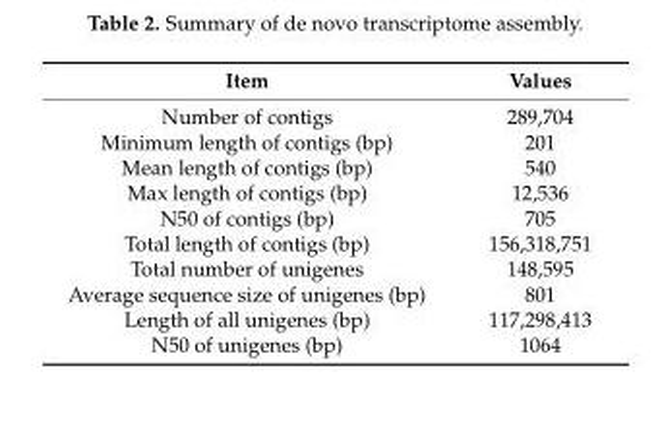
<table><thead><tr><td>Item</td><td>Values</td></tr></thead><tbody><tr><td>Number of contigs</td><td>289,704</td></tr><tr><td>Minimum length of contigs (bp)</td><td>201</td></tr><tr><td>Mean length of contigs (bp)</td><td>540</td></tr><tr><td>Max length of contigs (bp)</td><td>12,536</td></tr><tr><td>N50 of contigs (bp)</td><td>705</td></tr><tr><td>Total length of contigs (bp)</td><td>156,318,751</td></tr><tr><td>Total number of unigenes</td><td>148,595</td></tr><tr><td>Average sequence size of unigenes (bp)</td><td>801</td></tr><tr><td>Length of all unigenes (bp)</td><td>117,298,413</td></tr><tr><td>N50 of unigenes (bp)</td><td>1064</td></tr></tbody></table>